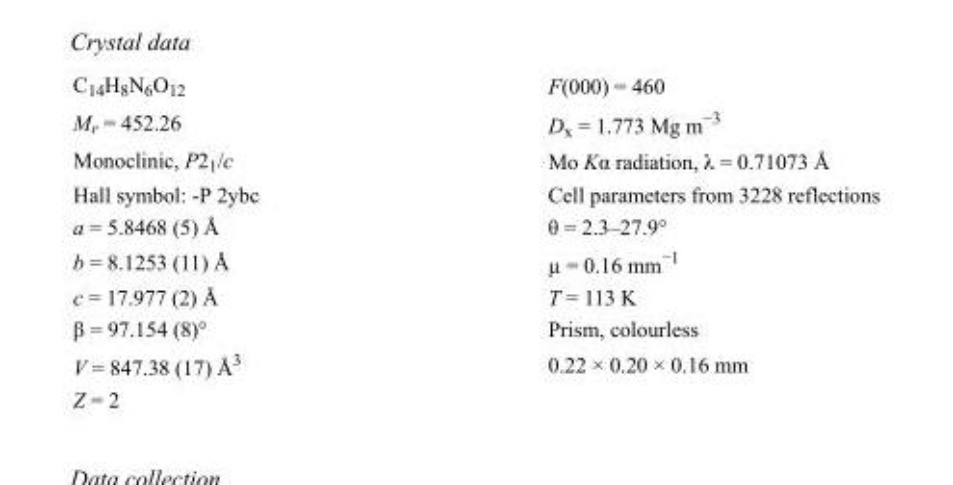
<table><tbody><tr><td>C<sub>14</sub>H<sub>8</sub>N<sub>6</sub>O<sub>12</sub></td><td>F(000) = 460</td></tr><tr><td>M<sub>r</sub> = 452.26</td><td>D<sub>x</sub> = 1.773 Mg m<sup>−3</sup></td></tr><tr><td>Monoclinic, P2<sub>1</sub>/c</td><td>Mo Kα radiation, λ = 0.71073 Å</td></tr><tr><td>Hall symbol: -P 2ybc</td><td>Cell parameters from 3228 reflections</td></tr><tr><td>a = 5.8468 (5) Å</td><td>θ = 2.3–27.9°</td></tr><tr><td>b = 8.1253 (11) Å</td><td>µ = 0.16 mm<sup>−1</sup></td></tr><tr><td>c = 17.977 (2) Å</td><td>T = 113 K</td></tr><tr><td>β = 97.154 (8)°</td><td>Prism, colourless</td></tr><tr><td>V = 847.38 (17) Å<sup>3</sup></td><td>0.22 × 0.20 × 0.16 mm</td></tr><tr><td>Z = 2</td><td></td></tr></tbody></table>